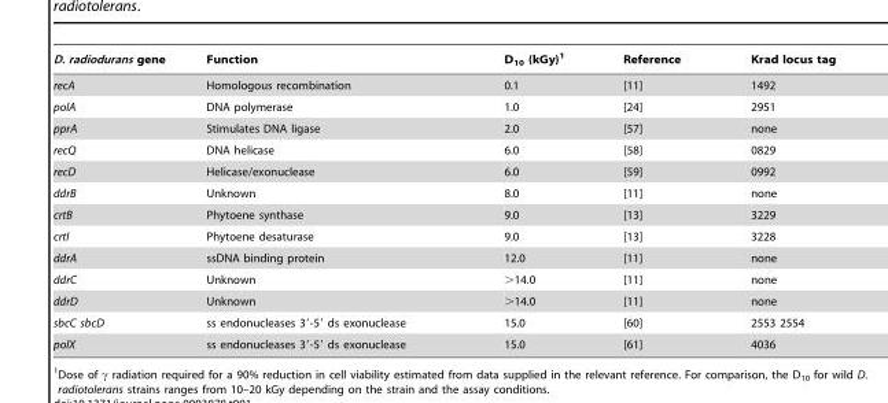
<table><thead><tr><td>D. radiodurans gene</td><td>Function</td><td>D<sub>10</sub> (kGy)<sup>1</sup></td><td>Reference</td><td>Krad locus tag</td></tr></thead><tbody><tr><td>recA</td><td>Homologous recombination</td><td>0.1</td><td>[11]</td><td>1492</td></tr><tr><td>polA</td><td>DNA polymerase</td><td>1.0</td><td>[24]</td><td>2951</td></tr><tr><td>pprA</td><td>Stimulates DNA ligase</td><td>2.0</td><td>[57]</td><td>none</td></tr><tr><td>recQ</td><td>DNA helicase</td><td>6.0</td><td>[58]</td><td>0829</td></tr><tr><td>recD</td><td>Helicase/exonuclease</td><td>6.0</td><td>[59]</td><td>0992</td></tr><tr><td>ddrB</td><td>Unknown</td><td>8.0</td><td>[11]</td><td>none</td></tr><tr><td>crtB</td><td>Phytoene synthase</td><td>9.0</td><td>[13]</td><td>3229</td></tr><tr><td>crtI</td><td>Phytoene desaturase</td><td>9.0</td><td>[13]</td><td>3228</td></tr><tr><td>ddrA</td><td>ssDNA binding protein</td><td>12.0</td><td>[11]</td><td>none</td></tr><tr><td>ddrC</td><td>Unknown</td><td>&gt;14.0</td><td>[11]</td><td>none</td></tr><tr><td>ddrD</td><td>Unknown</td><td>&gt;14.0</td><td>[11]</td><td>none</td></tr><tr><td>sbcC sbcD</td><td>ss endonucleases 3′-5′ ds exonuclease</td><td>15.0</td><td>[60]</td><td>2553 2554</td></tr><tr><td>polX</td><td>ss endonucleases 3′-5′ ds exonuclease</td><td>15.0</td><td>[61]</td><td>4036</td></tr></tbody></table>